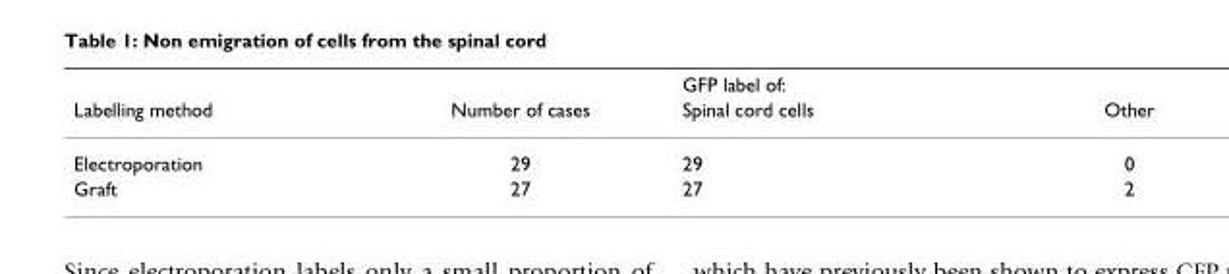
<table><thead><tr><td rowspan="2">Labelling method</td><td rowspan="2">Number of cases</td><td colspan="2">GFP label of:</td></tr><tr><td>Spinal cord cells</td><td>Other</td></tr></thead><tbody><tr><td>Electroporation</td><td>29</td><td>29</td><td>0</td></tr><tr><td>Graft</td><td>27</td><td>27</td><td>2</td></tr></tbody></table>